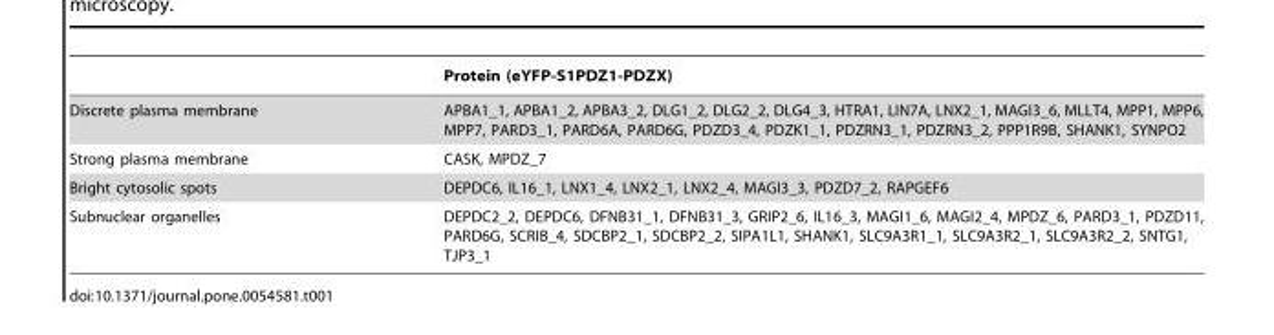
<table><thead><tr><td></td><td>Protein (eYFP-S1PDZ1-PDZX)</td></tr></thead><tbody><tr><td>Discrete plasma membrane</td><td>APBA1_1, APBA1_2, APBA3_2, DLG1_2, DLG2_2, DLG4_3, HTRA1, LIN7A, LNX2_1, MAGI3_6, MLLT4, MPP1, MPP6, MPP7, PARD3_1, PARD6A, PARD6G, PDZD3_4, PDZK1_1, PDZRN3_1, PDZRN3_2, PPP1R9B, SHANK1, SYNPO2</td></tr><tr><td>Strong plasma membrane</td><td>CASK, MPDZ_7</td></tr><tr><td>Bright cytosolic spots</td><td>DEPDC6, IL16_1, LNX1_4, LNX2_1, LNX2_4, MAGI3_3, PDZD7_2, RAPGEF6</td></tr><tr><td>Subnuclear organelles</td><td>DEPDC2_2, DEPDC6, DFNB31_1, DFNB31_3, GRIP2_6, IL16_3, MAGI1_6, MAGI2_4, MPDZ_6, PARD3_1, PDZD11, PARD6G, SCRIB_4, SDCBP2_1, SDCBP2_2, SIPA1L1, SHANK1, SLC9A3R1_1, SLC9A3R2_1, SLC9A3R2_2, SNTG1, TJP3_1</td></tr></tbody></table>